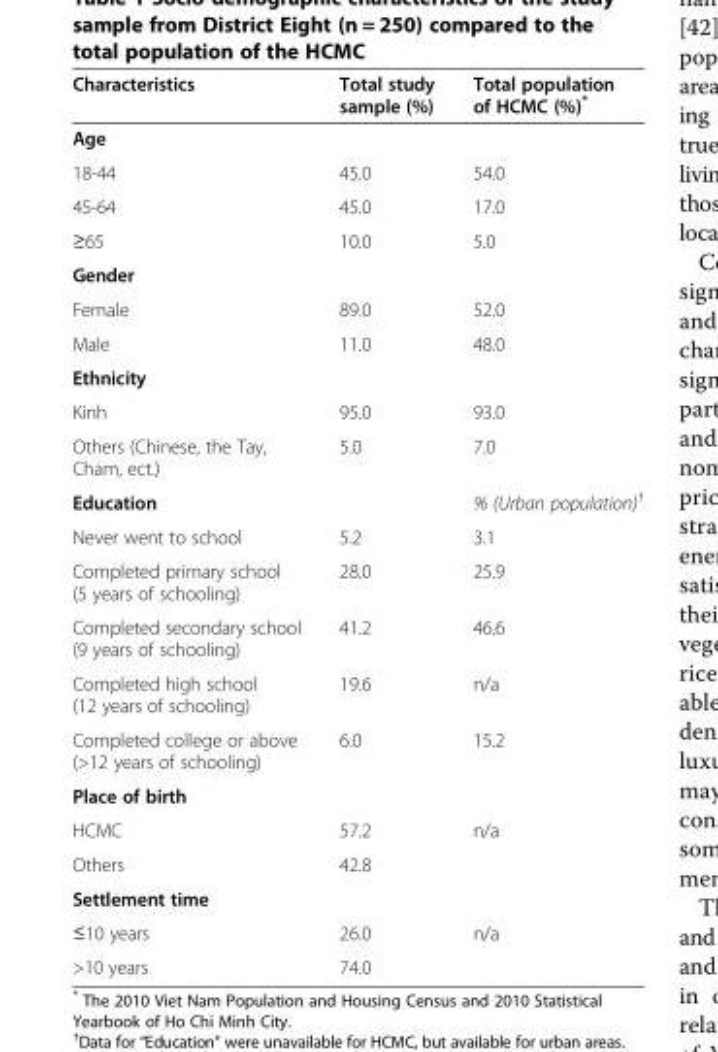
<table><thead><tr><td>Characteristics</td><td>Total study sample (%)</td><td>Total population of HCMC (%)*</td></tr></thead><tbody><tr><td colspan="3">Age</td></tr><tr><td>18-44</td><td>45.0</td><td>54.0</td></tr><tr><td>45-64</td><td>45.0</td><td>17.0</td></tr><tr><td>≥65</td><td>10.0</td><td>5.0</td></tr><tr><td colspan="3">Gender</td></tr><tr><td>Female</td><td>89.0</td><td>52.0</td></tr><tr><td>Male</td><td>11.0</td><td>48.0</td></tr><tr><td colspan="3">Ethnicity</td></tr><tr><td>Kinh</td><td>95.0</td><td>93.0</td></tr><tr><td>Others (Chinese, the Tay, Cham, ect.)</td><td>5.0</td><td>7.0</td></tr><tr><td>Education</td><td></td><td>% (Urban population)<sup>†</sup></td></tr><tr><td>Never went to school</td><td>5.2</td><td>3.1</td></tr><tr><td>Completed primary school (5 years of schooling)</td><td>28.0</td><td>25.9</td></tr><tr><td>Completed secondary school (9 years of schooling)</td><td>41.2</td><td>46.6</td></tr><tr><td>Completed high school (12 years of schooling)</td><td>19.6</td><td>n/a</td></tr><tr><td>Completed college or above (&gt;12 years of schooling)</td><td>6.0</td><td>15.2</td></tr><tr><td colspan="3">Place of birth</td></tr><tr><td>HCMC</td><td>57.2</td><td>n/a</td></tr><tr><td>Others</td><td>42.8</td><td></td></tr><tr><td colspan="3">Settlement time</td></tr><tr><td>≤10 years</td><td>26.0</td><td>n/a</td></tr><tr><td>&gt;10 years</td><td>74.0</td><td></td></tr></tbody></table>